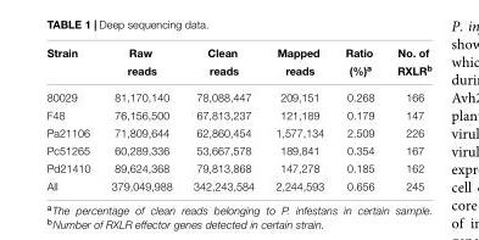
<table><thead><tr><td rowspan="2">Strain</td><td rowspan="2">Raw reads</td><td rowspan="2">Clean reads</td><td rowspan="2">Mapped reads</td><td rowspan="2">Ratio (%)<sup>a</sup></td><td rowspan="2">No. of RXLR<sup>b</sup></td></tr><tr></tr></thead><tbody><tr><td>80029</td><td>81,170,140</td><td>78,088,447</td><td>209,151</td><td>0.268</td><td>166</td></tr><tr><td>F48</td><td>76,156,500</td><td>67,813,237</td><td>121,189</td><td>0.179</td><td>147</td></tr><tr><td>Pa21106</td><td>71,809,644</td><td>62,860,454</td><td>1,577,134</td><td>2.509</td><td>226</td></tr><tr><td>Pc51265</td><td>60,289,336</td><td>53,667,578</td><td>189,841</td><td>0.354</td><td>167</td></tr><tr><td>Pd21410</td><td>89,624,368</td><td>79,813,868</td><td>147,278</td><td>0.185</td><td>162</td></tr><tr><td>All</td><td>379,049,988</td><td>342,243,584</td><td>2,244,593</td><td>0.656</td><td>245</td></tr></tbody></table>